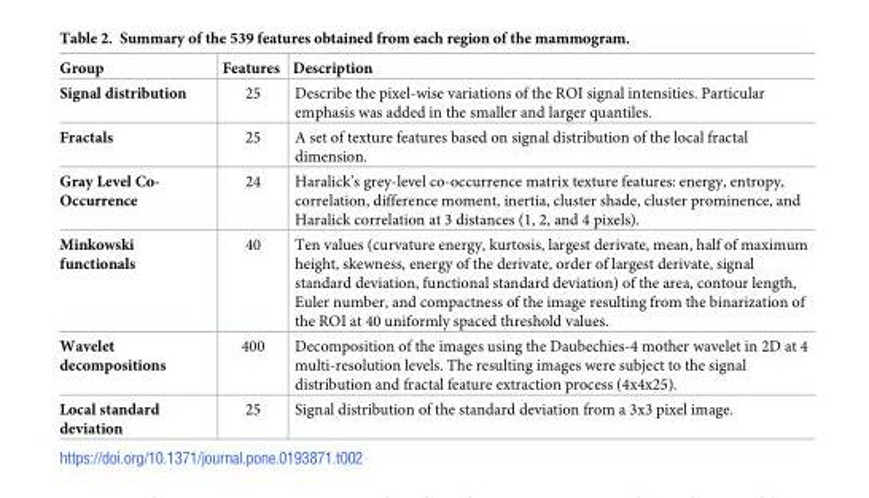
<table><thead><tr><td>Group</td><td>Features</td><td>Description</td></tr></thead><tbody><tr><td>Signal distribution</td><td>25</td><td>Describe the pixel-wise variations of the ROI signal intensities. Particular emphasis was added in the smaller and larger quantiles.</td></tr><tr><td>Fractals</td><td>25</td><td>A set of texture features based on signal distribution of the local fractal dimension.</td></tr><tr><td>Gray Level Co- Occurrence</td><td>24</td><td>Haralick’s grey-level co-occurrence matrix texture features: energy, entropy, correlation, difference moment, inertia, cluster shade, cluster prominence, and Haralick correlation at 3 distances (1, 2, and 4 pixels).</td></tr><tr><td>Minkowski functionals</td><td>40</td><td>Ten values (curvature energy, kurtosis, largest derivate, mean, half of maximum height, skewness, energy of the derivate, order of largest derivate, signal standard deviation, functional standard deviation) of the area, contour length, Euler number, and compactness of the image resulting from the binarization of the ROI at 40 uniformly spaced threshold values.</td></tr><tr><td>Wavelet decompositions</td><td>400</td><td>Decomposition of the images using the Daubechies-4 mother wavelet in 2D at 4 multi-resolution levels. The resulting images were subject to the signal distribution and fractal feature extraction process (4x4x25).</td></tr><tr><td>Local standard deviation</td><td>25</td><td>Signal distribution of the standard deviation from a 3x3 pixel image.</td></tr></tbody></table>